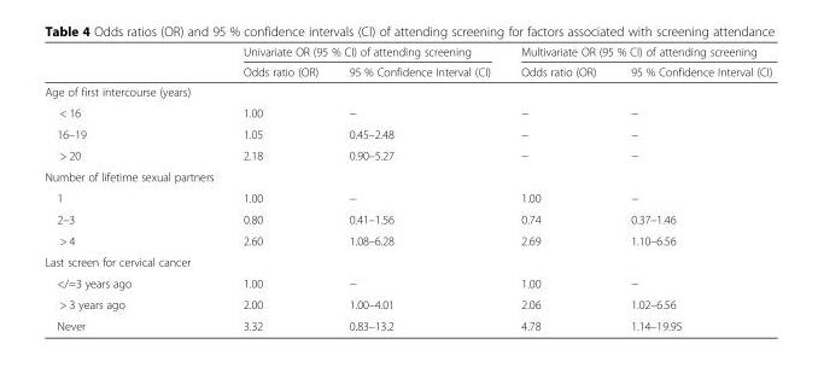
<table><thead><tr><td rowspan="2"></td><td colspan="2">Univariate OR (95 % CI) of attending screening</td><td colspan="2">Multivariate OR (95 % CI) of attending screening</td></tr><tr><td>Odds ratio (OR)</td><td>95 % Confidence Interval (CI)</td><td>Odds ratio (OR)</td><td>95 % Confidence Interval (CI)</td></tr></thead><tbody><tr><td colspan="5">Age of first intercourse (years)</td></tr><tr><td>&lt; 16</td><td>1.00</td><td>−</td><td>−</td><td>−</td></tr><tr><td>16–19</td><td>1.05</td><td>0.45–2.48</td><td>−</td><td>−</td></tr><tr><td>&gt; 20</td><td>2.18</td><td>0.90–5.27</td><td>−</td><td>−</td></tr><tr><td colspan="5">Number of lifetime sexual partners</td></tr><tr><td>1</td><td>1.00</td><td>−</td><td>1.00</td><td>−</td></tr><tr><td>2–3</td><td>0.80</td><td>0.41–1.56</td><td>0.74</td><td>0.37–1.46</td></tr><tr><td>&gt; 4</td><td>2.60</td><td>1.08–6.28</td><td>2.69</td><td>1.10–6.56</td></tr><tr><td colspan="5">Last screen for cervical cancer</td></tr><tr><td>&lt;/=3 years ago</td><td>1.00</td><td>−</td><td>1.00</td><td>−</td></tr><tr><td>&gt; 3 years ago</td><td>2.00</td><td>1.00–4.01</td><td>2.06</td><td>1.02–6.56</td></tr><tr><td>Never</td><td>3.32</td><td>0.83–13.2</td><td>4.78</td><td>1.14–19.95</td></tr></tbody></table>